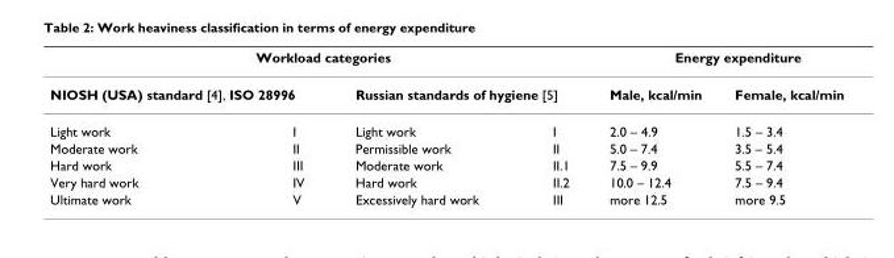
<table><thead><tr><td colspan="4">Workload categories</td><td colspan="2">Energy expenditure</td></tr><tr><td colspan="2">NIOSH (USA) standard [4], ISO 28996</td><td colspan="2">Russian standards of hygiene [5]</td><td rowspan="2">Male, kcal/min 2.0 – 4.9</td><td rowspan="2">Female, kcal/min 1.5 – 3.4</td></tr><tr><td>Light work</td><td>I</td><td>Light work</td><td>I</td></tr></thead><tbody><tr><td>Moderate work</td><td>II</td><td>Permissible work</td><td>II</td><td>5.0 – 7.4</td><td>3.5 – 5.4</td></tr><tr><td>Hard work</td><td>III</td><td>Moderate work</td><td>II.1</td><td>7.5 – 9.9</td><td>5.5 – 7.4</td></tr><tr><td>Very hard work</td><td>IV</td><td>Hard work</td><td>II.2</td><td>10.0 – 12.4</td><td>7.5 – 9.4</td></tr><tr><td>Ultimate work</td><td>V</td><td>Excessively hard work</td><td>III</td><td>more 12.5</td><td>more 9.5</td></tr></tbody></table>